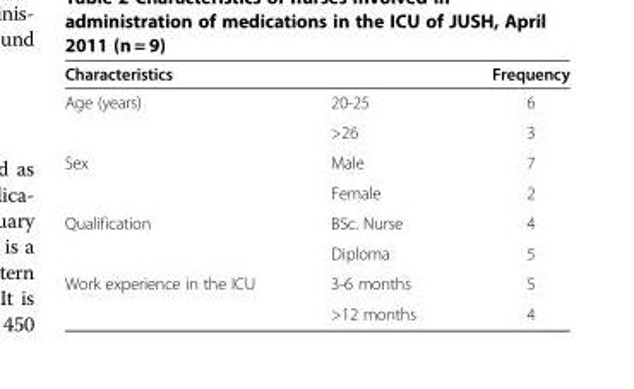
<table><thead><tr><td>Characteristics</td><td></td><td>Frequency</td></tr></thead><tbody><tr><td rowspan="2">Age (years)</td><td>20-25</td><td>6</td></tr><tr><td>&gt;26</td><td>3</td></tr><tr><td rowspan="2">Sex</td><td>Male</td><td>7</td></tr><tr><td>Female</td><td>2</td></tr><tr><td rowspan="2">Qualification</td><td>BSc. Nurse</td><td>4</td></tr><tr><td>Diploma</td><td>5</td></tr><tr><td rowspan="2">Work experience in the ICU</td><td>3-6 months</td><td>5</td></tr><tr><td>&gt;12 months</td><td>4</td></tr></tbody></table>